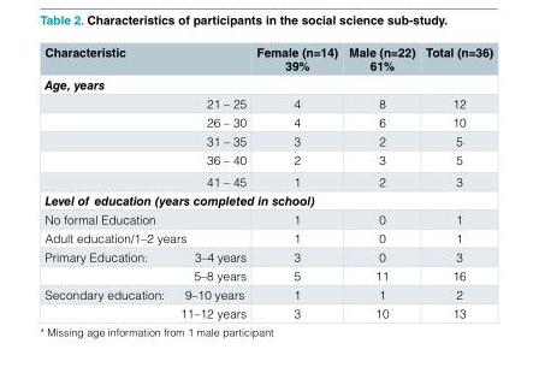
<table><thead><tr><td>Characteristic</td><td>Female (n=14) 39%</td><td>Male (n=22) 61%</td><td>Total (n=36)</td></tr></thead><tbody><tr><td colspan="4">Age, years</td></tr><tr><td>21 – 25</td><td>4</td><td>8</td><td>12</td></tr><tr><td>26 – 30</td><td>4</td><td>6</td><td>10</td></tr><tr><td>31 – 35</td><td>3</td><td>2</td><td>5</td></tr><tr><td>36 – 40</td><td>2</td><td>3</td><td>5</td></tr><tr><td>41 – 45</td><td>1</td><td>2</td><td>3</td></tr><tr><td colspan="4">Level of education (years completed in school)</td></tr><tr><td>No formal Education</td><td>1</td><td>0</td><td>1</td></tr><tr><td>Adult education/1–2 years</td><td>1</td><td>0</td><td>1</td></tr><tr><td>Primary Education: 3–4 years</td><td>3</td><td>0</td><td>3</td></tr><tr><td>5–8 years</td><td>5</td><td>11</td><td>16</td></tr><tr><td>Secondary education: 9–10 years</td><td>1</td><td>1</td><td>2</td></tr><tr><td>11–12 years</td><td>3</td><td>10</td><td>13</td></tr></tbody></table>